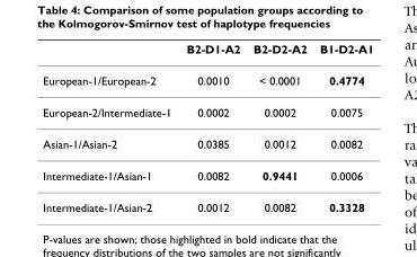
<table><thead><tr><td></td><td>B2-D1-A2</td><td>B2-D2-A2</td><td>B1-D2-A1</td></tr></thead><tbody><tr><td>European-1/European-2</td><td>0.0010</td><td>&lt; 0.0001</td><td>0.4774</td></tr><tr><td>European-2/Intermediate-1</td><td>0.0002</td><td>0.0002</td><td>0.0075</td></tr><tr><td>Asian-1/Asian-2</td><td>0.0385</td><td>0.0012</td><td>0.0082</td></tr><tr><td>Intermediate-1/Asian-1</td><td>0.0082</td><td>0.9441</td><td>0.0006</td></tr><tr><td>Intermediate-1/Asian-2</td><td>0.0012</td><td>0.0082</td><td>0.3328</td></tr></tbody></table>